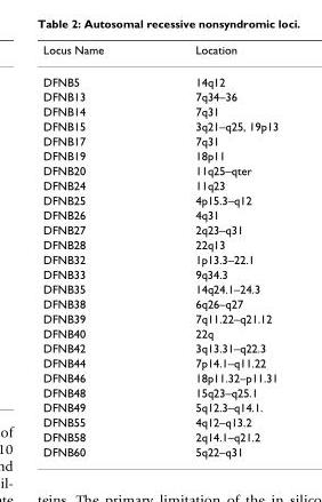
<table><thead><tr><td>Locus Name</td><td>Location</td></tr></thead><tbody><tr><td>DFNB5</td><td>14q12</td></tr><tr><td>DFNB13</td><td>7q34–36</td></tr><tr><td>DFNB14</td><td>7q31</td></tr><tr><td>DFNB15</td><td>3q21–q25, 19p13</td></tr><tr><td>DFNB17</td><td>7q31</td></tr><tr><td>DFNB19</td><td>18p11</td></tr><tr><td>DFNB20</td><td>11q25–qter</td></tr><tr><td>DFNB24</td><td>11q23</td></tr><tr><td>DFNB25</td><td>4p15.3–q12</td></tr><tr><td>DFNB26</td><td>4q31</td></tr><tr><td>DFNB27</td><td>2q23–q31</td></tr><tr><td>DFNB28</td><td>22q13</td></tr><tr><td>DFNB32</td><td>1p13.3–22.1</td></tr><tr><td>DFNB33</td><td>9q34.3</td></tr><tr><td>DFNB35</td><td>14q24.1–24.3</td></tr><tr><td>DFNB38</td><td>6q26–q27</td></tr><tr><td>DFNB39</td><td>7q11.22–q21.12</td></tr><tr><td>DFNB40</td><td>22q</td></tr><tr><td>DFNB42</td><td>3q13.31–q22.3</td></tr><tr><td>DFNB44</td><td>7p14.1–q11.22</td></tr><tr><td>DFNB46</td><td>18p11.32–p11.31</td></tr><tr><td>DFNB48</td><td>15q23–q25.1</td></tr><tr><td>DFNB49</td><td>5q12.3–q14.1.</td></tr><tr><td>DFNB55</td><td>4q12–q13.2</td></tr><tr><td>DFNB58</td><td>2q14.1–q21.2</td></tr><tr><td>DFNB60</td><td>5q22–q31</td></tr></tbody></table>